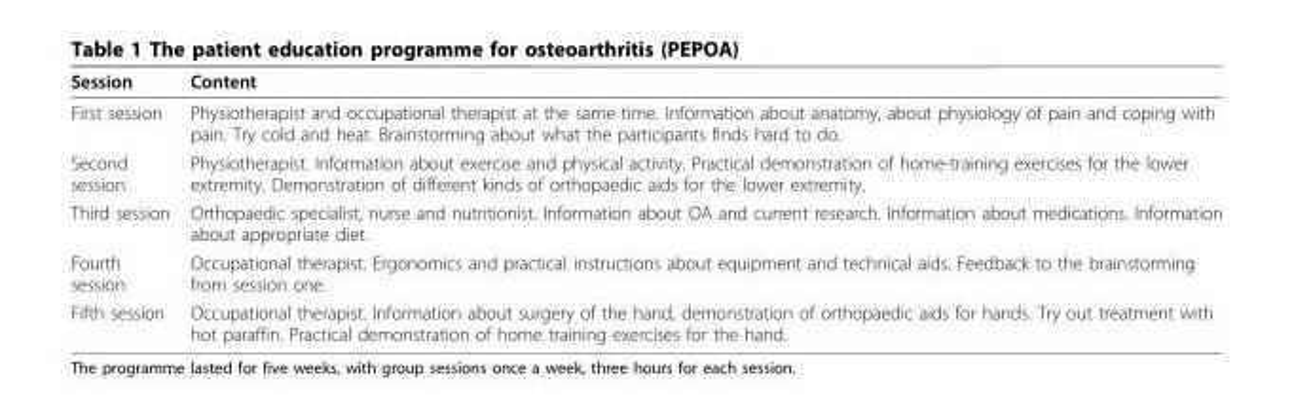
<table><thead><tr><td>Session</td><td>Content</td></tr></thead><tbody><tr><td>First session</td><td>Physiotherapist and occupational therapist at the same time. Information about anatomy, about physiology of pain and coping with pain. Try cold and heat. Brainstorming about what the participants finds hard to do.</td></tr><tr><td>Second session</td><td>Physiotherapist. Information about exercise and physical activity. Practical demonstration of home-training exercises for the lower extremity. Demonstration of different kinds of orthopaedic aids for the lower extremity.</td></tr><tr><td>Third session</td><td>Orthopaedic specialist, nurse and nutritionist. Information about OA and current research. Information about medications. Information about appropriate diet.</td></tr><tr><td>Fourth session</td><td>Occupational therapist. Ergonomics and practical instructions about equipment and technical aids. Feedback to the brainstorming from session one.</td></tr><tr><td>Fifth session</td><td>Occupational therapist. Information about surgery of the hand, demonstration of orthopaedic aids for hands. Try out treatment with hot paraffin. Practical demonstration of home training exercises for the hand.</td></tr></tbody></table>